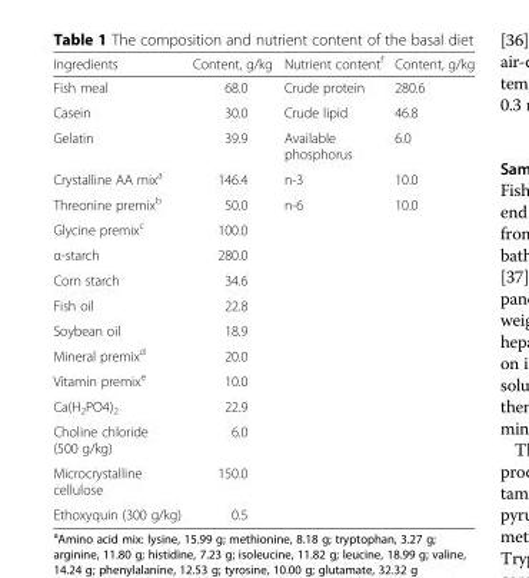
<table><thead><tr><td>Ingredients</td><td>Content, g/kg</td><td>Nutrient content<sup>f</sup></td><td>Content, g/kg</td></tr></thead><tbody><tr><td>Fish meal</td><td>68.0</td><td>Crude protein</td><td>280.6</td></tr><tr><td>Casein</td><td>30.0</td><td>Crude lipid</td><td>46.8</td></tr><tr><td>Gelatin</td><td>39.9</td><td>Available phosphorus</td><td>6.0</td></tr><tr><td>Crystalline AA mix<sup>a</sup></td><td>146.4</td><td>n-3</td><td>10.0</td></tr><tr><td>Threonine premix<sup>b</sup></td><td>50.0</td><td>n-6</td><td>10.0</td></tr><tr><td>Glycine premix<sup>c</sup></td><td>100.0</td><td></td><td></td></tr><tr><td>α-starch</td><td>280.0</td><td></td><td></td></tr><tr><td>Corn starch</td><td>34.6</td><td></td><td></td></tr><tr><td>Fish oil</td><td>22.8</td><td></td><td></td></tr><tr><td>Soybean oil</td><td>18.9</td><td></td><td></td></tr><tr><td>Mineral premix<sup>d</sup></td><td>20.0</td><td></td><td></td></tr><tr><td>Vitamin premix<sup>e</sup></td><td>10.0</td><td></td><td></td></tr><tr><td>Ca(H<sub>2</sub>PO4)<sub>2</sub></td><td>22.9</td><td></td><td></td></tr><tr><td>Choline chloride (500 g/kg)</td><td>6.0</td><td></td><td></td></tr><tr><td>Microcrystalline cellulose</td><td>150.0</td><td></td><td></td></tr><tr><td>Ethoxyquin (300 g/kg)</td><td>0.5</td><td></td><td></td></tr></tbody></table>